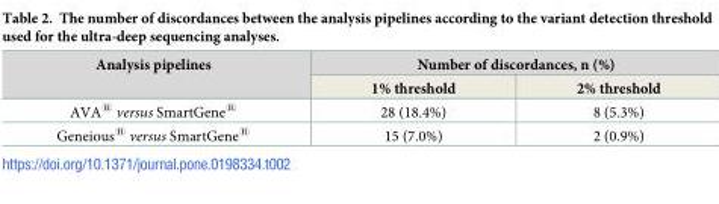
<table><thead><tr><td rowspan="2">Analysis pipelines</td><td colspan="2">Number of discordances, n (%)</td></tr><tr><td>1% threshold</td><td>2% threshold</td></tr></thead><tbody><tr><td>AVA<sup>®</sup> versus SmartGene<sup>®</sup></td><td>28 (18.4%)</td><td>8 (5.3%)</td></tr><tr><td>Geneious<sup>®</sup> versus SmartGene<sup>®</sup></td><td>15 (7.0%)</td><td>2 (0.9%)</td></tr></tbody></table>